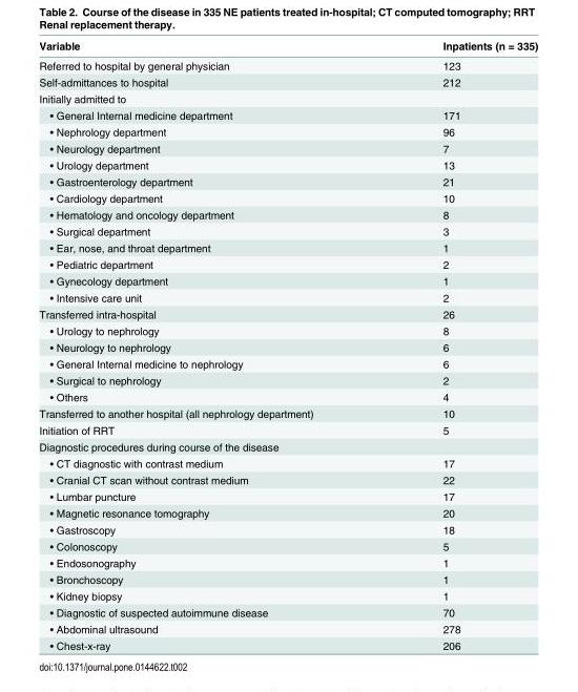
<table><thead><tr><td>Variable</td><td>Inpatients (n = 335)</td></tr></thead><tbody><tr><td>Referred to hospital by general physician</td><td>123</td></tr><tr><td>Self-admittances to hospital</td><td>212</td></tr><tr><td colspan="2">Initially admitted to</td></tr><tr><td>• General Internal medicine department</td><td>171</td></tr><tr><td>• Nephrology department</td><td>96</td></tr><tr><td>• Neurology department</td><td>7</td></tr><tr><td>• Urology department</td><td>13</td></tr><tr><td>• Gastroenterology department</td><td>21</td></tr><tr><td>• Cardiology department</td><td>10</td></tr><tr><td>• Hematology and oncology department</td><td>8</td></tr><tr><td>• Surgical department</td><td>3</td></tr><tr><td>• Ear, nose, and throat department</td><td>1</td></tr><tr><td>• Pediatric department</td><td>2</td></tr><tr><td>• Gynecology department</td><td>1</td></tr><tr><td>• Intensive care unit</td><td>2</td></tr><tr><td>Transferred intra-hospital</td><td>26</td></tr><tr><td>• Urology to nephrology</td><td>8</td></tr><tr><td>• Neurology to nephrology</td><td>6</td></tr><tr><td>• General Internal medicine to nephrology</td><td>6</td></tr><tr><td>• Surgical to nephrology</td><td>2</td></tr><tr><td>• Others</td><td>4</td></tr><tr><td>Transferred to another hospital (all nephrology department)</td><td>10</td></tr><tr><td>Initiation of RRT</td><td>5</td></tr><tr><td colspan="2">Diagnostic procedures during course of the disease</td></tr><tr><td>• CT diagnostic with contrast medium</td><td>17</td></tr><tr><td>• Cranial CT scan without contrast medium</td><td>22</td></tr><tr><td>• Lumbar puncture</td><td>17</td></tr><tr><td>• Magnetic resonance tomography</td><td>20</td></tr><tr><td>• Gastroscopy</td><td>18</td></tr><tr><td>• Colonoscopy</td><td>5</td></tr><tr><td>• Endosonography</td><td>1</td></tr><tr><td>• Bronchoscopy</td><td>1</td></tr><tr><td>• Kidney biopsy</td><td>1</td></tr><tr><td>• Diagnostic of suspected autoimmune disease</td><td>70</td></tr><tr><td>• Abdominal ultrasound</td><td>278</td></tr><tr><td>• Chest-x-ray</td><td>206</td></tr></tbody></table>